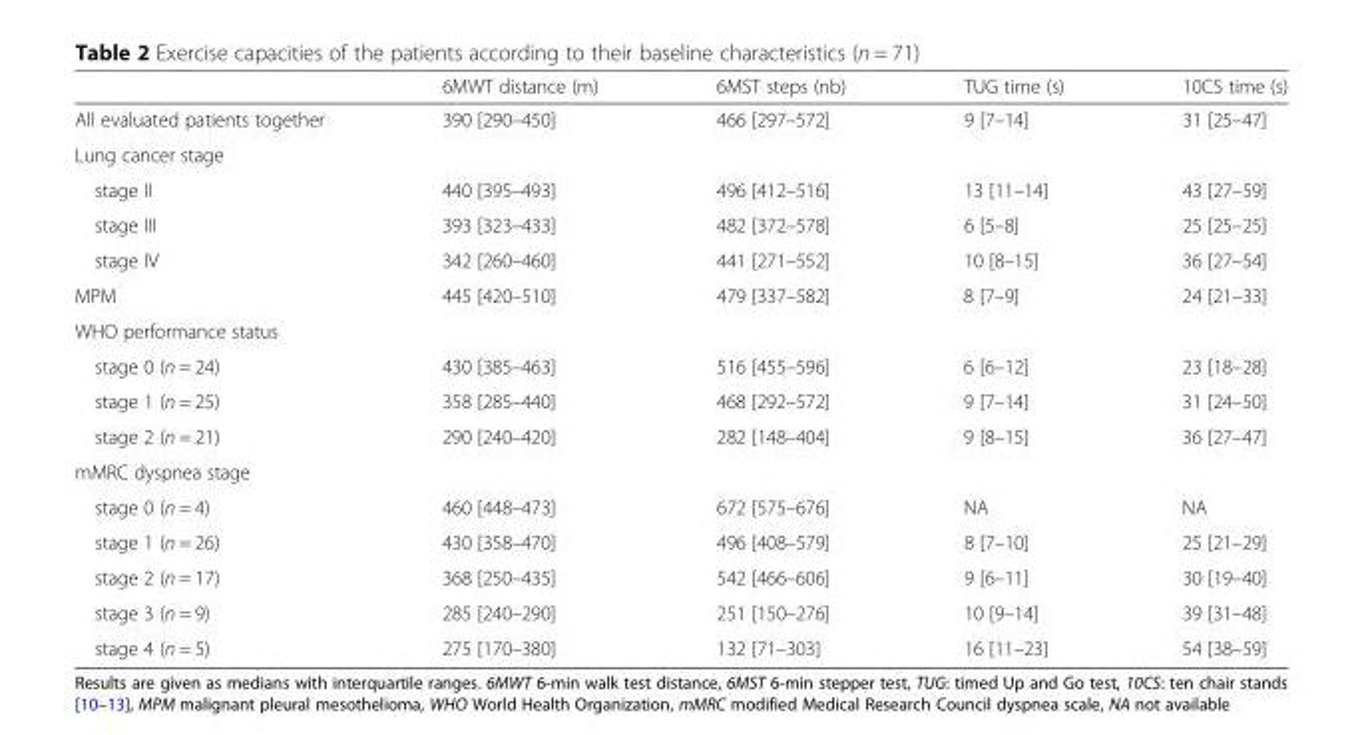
<table><thead><tr><td></td><td>6MWT distance (m)</td><td>6MST steps (nb)</td><td>TUG time (s)</td><td>10CS time (s)</td></tr></thead><tbody><tr><td>All evaluated patients together</td><td>390 [290–450]</td><td>466 [297–572]</td><td>9 [7–14]</td><td>31 [25–47]</td></tr><tr><td colspan="5">Lung cancer stage</td></tr><tr><td>stage II</td><td>440 [395–493]</td><td>496 [412–516]</td><td>13 [11–14]</td><td>43 [27–59]</td></tr><tr><td>stage III</td><td>393 [323–433]</td><td>482 [372–578]</td><td>6 [5–8]</td><td>25 [25–25]</td></tr><tr><td>stage IV</td><td>342 [260–460]</td><td>441 [271–552]</td><td>10 [8–15]</td><td>36 [27–54]</td></tr><tr><td>MPM</td><td>445 [420–510]</td><td>479 [337–582]</td><td>8 [7–9]</td><td>24 [21–33]</td></tr><tr><td colspan="5">WHO performance status</td></tr><tr><td>stage 0 (n = 24)</td><td>430 [385–463]</td><td>516 [455–596]</td><td>6 [6–12]</td><td>23 [18–28]</td></tr><tr><td>stage 1 (n = 25)</td><td>358 [285–440]</td><td>468 [292–572]</td><td>9 [7–14]</td><td>31 [24–50]</td></tr><tr><td>stage 2 (n = 21)</td><td>290 [240–420]</td><td>282 [148–404]</td><td>9 [8–15]</td><td>36 [27–47]</td></tr><tr><td colspan="5">mMRC dyspnea stage</td></tr><tr><td>stage 0 (n = 4)</td><td>460 [448–473]</td><td>672 [575–676]</td><td>NA</td><td>NA</td></tr><tr><td>stage 1 (n = 26)</td><td>430 [358–470]</td><td>496 [408–579]</td><td>8 [7–10]</td><td>25 [21–29]</td></tr><tr><td>stage 2 (n = 17)</td><td>368 [250–435]</td><td>542 [466–606]</td><td>9 [6–11]</td><td>30 [19–40]</td></tr><tr><td>stage 3 (n = 9)</td><td>285 [240–290]</td><td>251 [150–276]</td><td>10 [9–14]</td><td>39 [31–48]</td></tr><tr><td>stage 4 (n = 5)</td><td>275 [170–380]</td><td>132 [71–303]</td><td>16 [11–23]</td><td>54 [38–59]</td></tr></tbody></table>